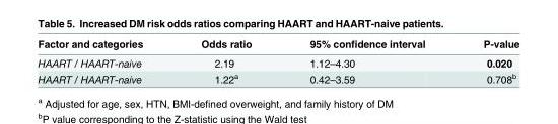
<table><thead><tr><td>Factor and categories</td><td>Odds ratio</td><td>95% confidence interval</td><td>P-value</td></tr></thead><tbody><tr><td>HAART / HAART-naive</td><td>2.19</td><td>1.12–4.30</td><td>0.020</td></tr><tr><td>HAART / HAART-naive</td><td>1.22<sup>a</sup></td><td>0.42–3.59</td><td>0.708<sup>b</sup></td></tr></tbody></table>